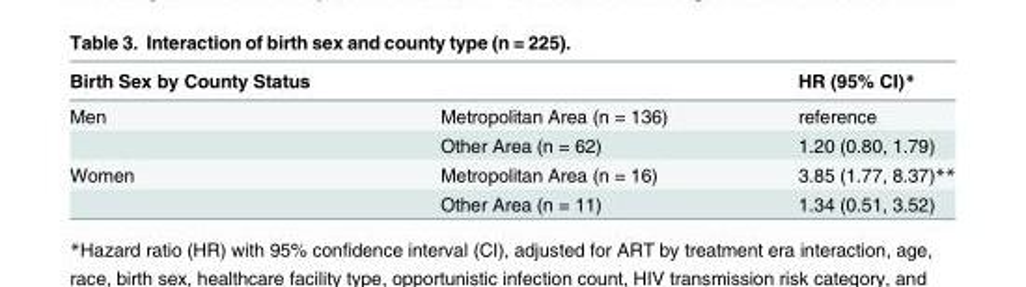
<table><thead><tr><td>Birth Sex by County Status</td><td></td><td>HR (95% CI)*</td></tr></thead><tbody><tr><td rowspan="2">Men</td><td>Metropolitan Area (n = 136)</td><td>reference</td></tr><tr><td>Other Area (n = 62)</td><td>1.20 (0.80, 1.79)</td></tr><tr><td rowspan="2">Women</td><td>Metropolitan Area (n = 16)</td><td>3.85 (1.77, 8.37)**</td></tr><tr><td>Other Area (n = 11)</td><td>1.34 (0.51, 3.52)</td></tr></tbody></table>